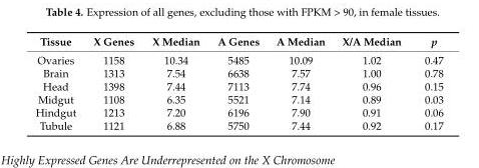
<table><thead><tr><td>Tissue</td><td>X Genes</td><td>X Median</td><td>A Genes</td><td>A Median</td><td>X/A Median</td><td>p</td></tr></thead><tbody><tr><td>Ovaries</td><td>1158</td><td>10.34</td><td>5485</td><td>10.09</td><td>1.02</td><td>0.47</td></tr><tr><td>Brain</td><td>1313</td><td>7.54</td><td>6638</td><td>7.57</td><td>1.00</td><td>0.78</td></tr><tr><td>Head</td><td>1398</td><td>7.44</td><td>7113</td><td>7.74</td><td>0.96</td><td>0.15</td></tr><tr><td>Midgut</td><td>1108</td><td>6.35</td><td>5521</td><td>7.14</td><td>0.89</td><td>0.03</td></tr><tr><td>Hindgut</td><td>1213</td><td>7.20</td><td>6196</td><td>7.90</td><td>0.91</td><td>0.06</td></tr><tr><td>Tubule</td><td>1121</td><td>6.88</td><td>5750</td><td>7.44</td><td>0.92</td><td>0.17</td></tr></tbody></table>